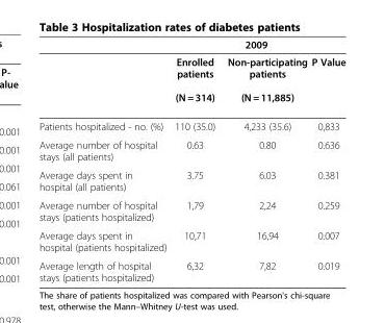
<table><thead><tr><td rowspan="2"></td><td colspan="3">2009</td></tr><tr><td>Enrolled patients (N = 314)</td><td>Non-participating patients (N = 11,885)</td><td>P Value</td></tr></thead><tbody><tr><td>Patients hospitalized - no. (%)</td><td>110 (35.0)</td><td>4,233 (35.6)</td><td>0,833</td></tr><tr><td>Average number of hospital stays (all patients)</td><td>0.63</td><td>0.80</td><td>0.636</td></tr><tr><td>Average days spent in hospital (all patients)</td><td>3.75</td><td>6.03</td><td>0.381</td></tr><tr><td>Average number of hospital stays (patients hospitalized)</td><td>1,79</td><td>2,24</td><td>0.259</td></tr><tr><td>Average days spent in hospital (patients hospitalized)</td><td>10,71</td><td>16,94</td><td>0.007</td></tr><tr><td>Average length of hospital stays (patients hospitalized)</td><td>6,32</td><td>7,82</td><td>0.019</td></tr></tbody></table>